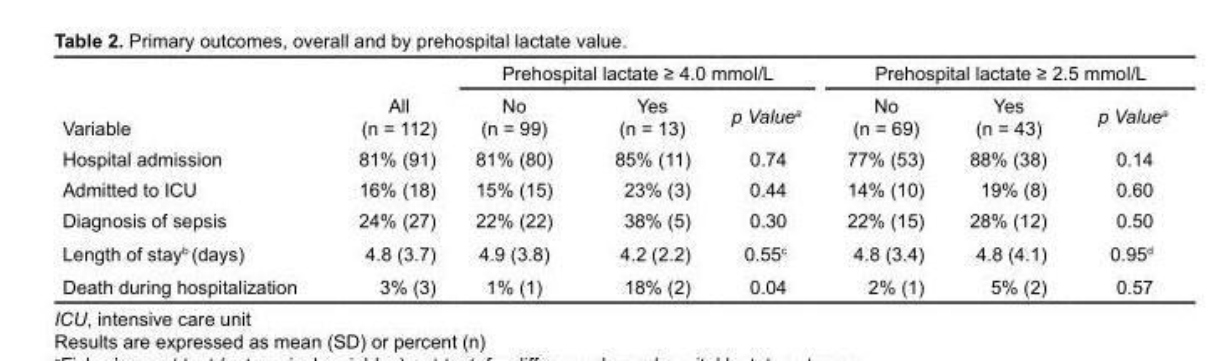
<table><thead><tr><td rowspan="2">Variable</td><td rowspan="2">All (n = 112)</td><td colspan="3">Prehospital lactate ≥ 4.0 mmol/L</td><td colspan="3">Prehospital lactate ≥ 2.5 mmol/L</td></tr><tr><td>No (n = 99)</td><td>Yes (n = 13)</td><td>p Value<sup>a</sup></td><td>No (n = 69)</td><td>Yes (n = 43)</td><td>p Value<sup>a</sup></td></tr></thead><tbody><tr><td>Hospital admission</td><td>81% (91)</td><td>81% (80)</td><td>85% (11)</td><td>0.74</td><td>77% (53)</td><td>88% (38)</td><td>0.14</td></tr><tr><td>Admitted to ICU</td><td>16% (18)</td><td>15% (15)</td><td>23% (3)</td><td>0.44</td><td>14% (10)</td><td>19% (8)</td><td>0.60</td></tr><tr><td>Diagnosis of sepsis</td><td>24% (27)</td><td>22% (22)</td><td>38% (5)</td><td>0.30</td><td>22% (15)</td><td>28% (12)</td><td>0.50</td></tr><tr><td>Length of stay<sup>b</sup> (days)</td><td>4.8 (3.7)</td><td>4.9 (3.8)</td><td>4.2 (2.2)</td><td>0.55<sup>c</sup></td><td>4.8 (3.4)</td><td>4.8 (4.1)</td><td>0.95<sup>d</sup></td></tr><tr><td>Death during hospitalization</td><td>3% (3)</td><td>1% (1)</td><td>18% (2)</td><td>0.04</td><td>2% (1)</td><td>5% (2)</td><td>0.57</td></tr></tbody></table>